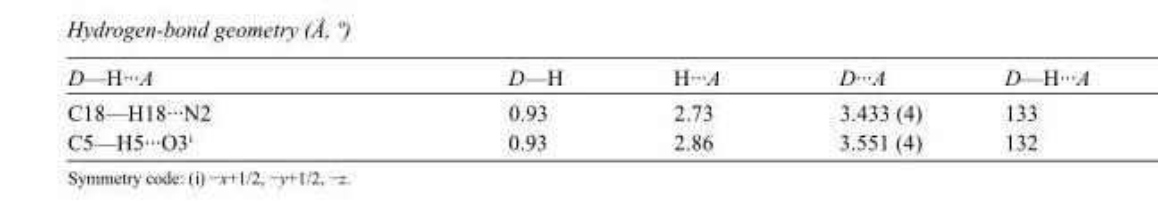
<table><tbody><tr><td>D—H···A</td><td>D—H</td><td>H···A</td><td>D···A</td><td>D—H···A</td></tr><tr><td>C18—H18···N2</td><td>0.93</td><td>2.73</td><td>3.433 (4)</td><td>133</td></tr><tr><td>C5—H5···O3<sup>i</sup></td><td>0.93</td><td>2.86</td><td>3.551 (4)</td><td>132</td></tr></tbody></table>